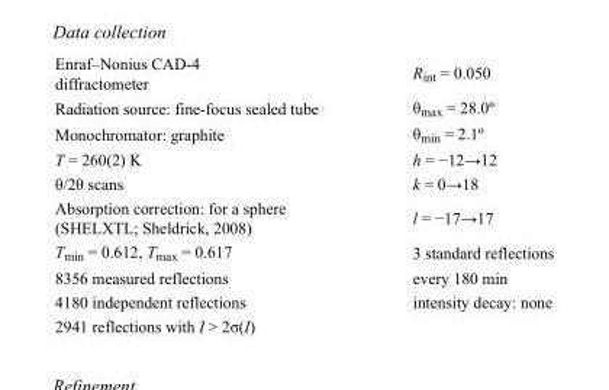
<table><tbody><tr><td>Enraf–Nonius CAD-4 diffractometer</td><td>R<sub>int</sub> = 0.050</td></tr><tr><td>Radiation source: fine-focus sealed tube</td><td>θ<sub>max</sub> = 28.0º</td></tr><tr><td>Monochromator: graphite</td><td>θ<sub>min</sub> = 2.1º</td></tr><tr><td>T = 260(2) K</td><td>h = −12→12</td></tr><tr><td>θ/2θ scans</td><td>k = 0→18</td></tr><tr><td>Absorption correction: for a sphere (SHELXTL; Sheldrick, 2008)</td><td>l = −17→17</td></tr><tr><td>T<sub>min</sub> = 0.612, T<sub>max</sub> = 0.617</td><td>3 standard reflections</td></tr><tr><td>8356 measured reflections</td><td>every 180 min</td></tr><tr><td>4180 independent reflections</td><td>intensity decay: none</td></tr><tr><td>2941 reflections with I &gt; 2σ(I)</td><td></td></tr></tbody></table>